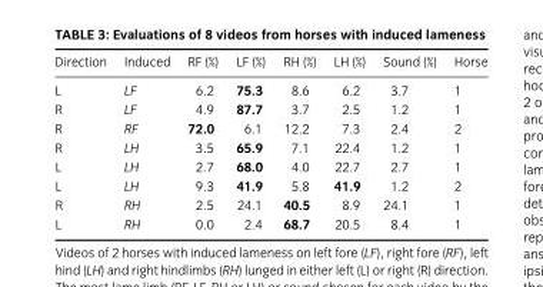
<table><thead><tr><td>Direction</td><td>Induced</td><td>RF (%)</td><td>LF (%)</td><td>RH (%)</td><td>LH (%)</td><td>Sound (%)</td><td>Horse</td></tr></thead><tbody><tr><td>L</td><td>LF</td><td>6.2</td><td>75.3</td><td>8.6</td><td>6.2</td><td>3.7</td><td>1</td></tr><tr><td>R</td><td>LF</td><td>4.9</td><td>87.7</td><td>3.7</td><td>2.5</td><td>1.2</td><td>1</td></tr><tr><td>R</td><td>RF</td><td>72.0</td><td>6.1</td><td>12.2</td><td>7.3</td><td>2.4</td><td>2</td></tr><tr><td>R</td><td>LH</td><td>3.5</td><td>65.9</td><td>7.1</td><td>22.4</td><td>1.2</td><td>1</td></tr><tr><td>L</td><td>LH</td><td>2.7</td><td>68.0</td><td>4.0</td><td>22.7</td><td>2.7</td><td>1</td></tr><tr><td>L</td><td>LH</td><td>9.3</td><td>41.9</td><td>5.8</td><td>41.9</td><td>1.2</td><td>2</td></tr><tr><td>R</td><td>RH</td><td>2.5</td><td>24.1</td><td>40.5</td><td>8.9</td><td>24.1</td><td>1</td></tr><tr><td>L</td><td>RH</td><td>0.0</td><td>2.4</td><td>68.7</td><td>20.5</td><td>8.4</td><td>1</td></tr></tbody></table>